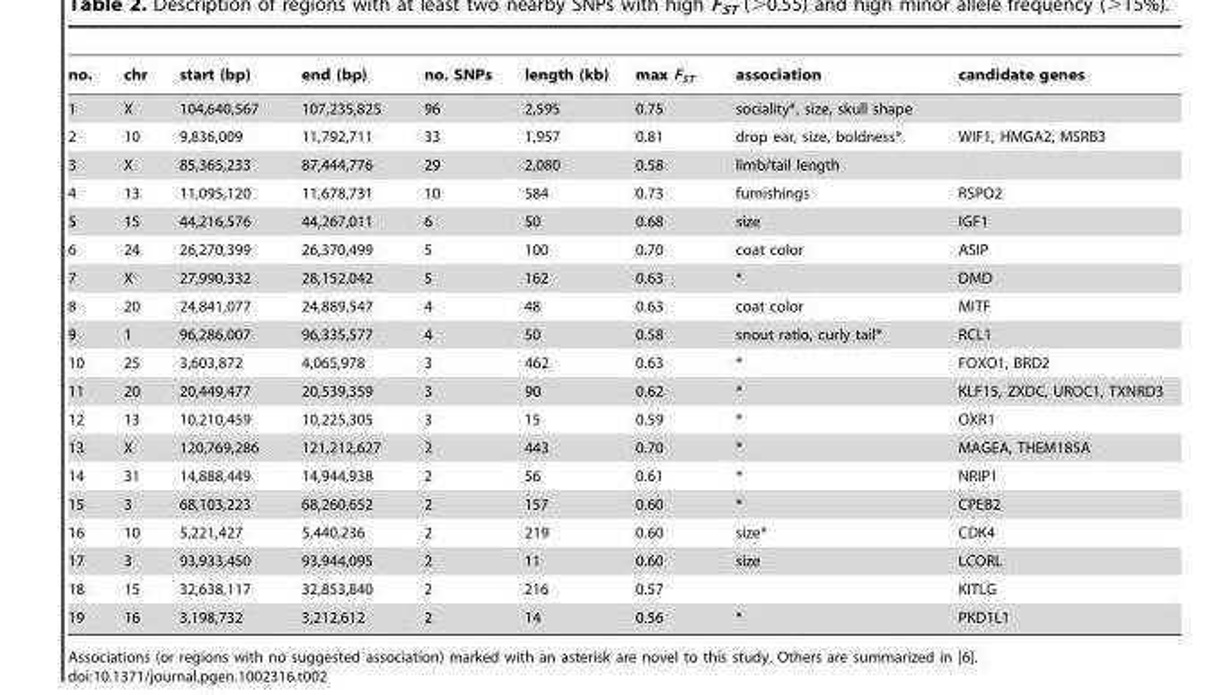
<table><thead><tr><td>no.</td><td>chr</td><td>start (bp)</td><td>end (bp)</td><td>no. SNPs</td><td>length (kb)</td><td>max F<sub>ST</sub></td><td>association</td><td>candidate genes</td></tr></thead><tbody><tr><td>1</td><td>X</td><td>104,640,567</td><td>107,235,825</td><td>96</td><td>2,595</td><td>0.75</td><td>sociality*, size, skull shape</td><td></td></tr><tr><td>2</td><td>10</td><td>9,836,009</td><td>11,792,711</td><td>33</td><td>1,957</td><td>0.81</td><td>drop ear, size, boldness*</td><td>WIF1, HMGA2, MSRB3</td></tr><tr><td>3</td><td>X</td><td>85,365,233</td><td>87,444,776</td><td>29</td><td>2,080</td><td>0.58</td><td>limb/tail length</td><td></td></tr><tr><td>4</td><td>13</td><td>11,095,120</td><td>11,678,731</td><td>10</td><td>584</td><td>0.73</td><td>furnishings</td><td>RSPO2</td></tr><tr><td>5</td><td>15</td><td>44,216,576</td><td>44,267,011</td><td>6</td><td>50</td><td>0.68</td><td>size</td><td>IGF1</td></tr><tr><td>6</td><td>24</td><td>26,270,399</td><td>26,370,499</td><td>5</td><td>100</td><td>0.70</td><td>coat color</td><td>ASIP</td></tr><tr><td>7</td><td>X</td><td>27,990,332</td><td>28,152,042</td><td>5</td><td>162</td><td>0.63</td><td>*</td><td>DMD</td></tr><tr><td>8</td><td>20</td><td>24,841,077</td><td>24,889,547</td><td>4</td><td>48</td><td>0.63</td><td>coat color</td><td>MITF</td></tr><tr><td>9</td><td>1</td><td>96,286,007</td><td>96,335,577</td><td>4</td><td>50</td><td>0.58</td><td>snout ratio, curly tail*</td><td>RCL1</td></tr><tr><td>10</td><td>25</td><td>3,603,872</td><td>4,065,978</td><td>3</td><td>462</td><td>0.63</td><td>*</td><td>FOXO1, BRD2</td></tr><tr><td>11</td><td>20</td><td>20,449,477</td><td>20,539,359</td><td>3</td><td>90</td><td>0.62</td><td>*</td><td>KLF15, ZXDC, UROC1, TXNRD3</td></tr><tr><td>12</td><td>13</td><td>10,210,459</td><td>10,225,305</td><td>3</td><td>15</td><td>0.59</td><td>*</td><td>OXR1</td></tr><tr><td>13</td><td>X</td><td>120,769,286</td><td>121,212,627</td><td>2</td><td>443</td><td>0.70</td><td>*</td><td>MAGEA, THEM185A</td></tr><tr><td>14</td><td>31</td><td>14,888,449</td><td>14,944,938</td><td>2</td><td>56</td><td>0.61</td><td>*</td><td>NRIP1</td></tr><tr><td>15</td><td>3</td><td>68,103,223</td><td>68,260,652</td><td>2</td><td>157</td><td>0.60</td><td>*</td><td>CPEB2</td></tr><tr><td>16</td><td>10</td><td>5,221,427</td><td>5,440,236</td><td>2</td><td>219</td><td>0.60</td><td>size*</td><td>CDK4</td></tr><tr><td>17</td><td>3</td><td>93,933,450</td><td>93,944,095</td><td>2</td><td>11</td><td>0.60</td><td>size</td><td>LCORL</td></tr><tr><td>18</td><td>15</td><td>32,638,117</td><td>32,853,840</td><td>2</td><td>216</td><td>0.57</td><td></td><td>KITLG</td></tr><tr><td>19</td><td>16</td><td>3,198,732</td><td>3,212,612</td><td>2</td><td>14</td><td>0.56</td><td>*</td><td>PKD1L1</td></tr></tbody></table>